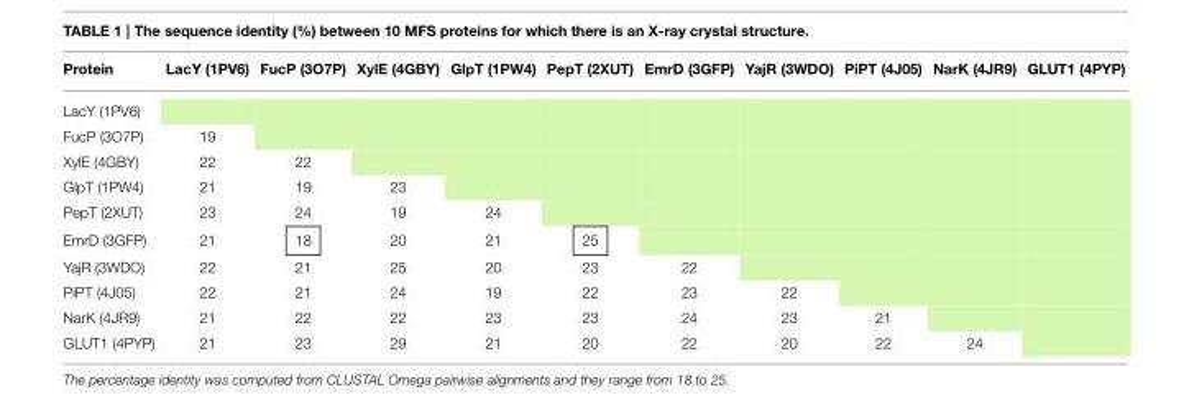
<table><thead><tr><td>Protein</td><td>LacY (1PV6)</td><td>FucP (3O7P)</td><td>XylE (4GBY)</td><td>GlpT (1PW4)</td><td>PepT (2XUT)</td><td>EmrD (3GFP)</td><td>YajR (3WDO)</td><td>PiPT (4J05)</td><td>NarK (4JR9)</td><td>GLUT1 (4PYP)</td></tr></thead><tbody><tr><td colspan="11">LacY (1PV6)</td></tr><tr><td>FucP (3O7P)</td><td>19</td><td></td><td></td><td></td><td></td><td></td><td></td><td></td><td></td><td></td></tr><tr><td>XylE (4GBY)</td><td>22</td><td>22</td><td></td><td></td><td></td><td></td><td></td><td></td><td></td><td></td></tr><tr><td>GlpT (1PW4)</td><td>21</td><td>19</td><td>23</td><td></td><td></td><td></td><td></td><td></td><td></td><td></td></tr><tr><td>PepT (2XUT)</td><td>23</td><td>24</td><td>19</td><td>24</td><td></td><td></td><td></td><td></td><td></td><td></td></tr><tr><td>EmrD (3GFP)</td><td>21</td><td>18</td><td>20</td><td>21</td><td>25</td><td></td><td></td><td></td><td></td><td></td></tr><tr><td>YajR (3WDO)</td><td>22</td><td>21</td><td>25</td><td>20</td><td>23</td><td>22</td><td></td><td></td><td></td><td></td></tr><tr><td>PiPT (4J05)</td><td>22</td><td>21</td><td>24</td><td>19</td><td>22</td><td>23</td><td>22</td><td></td><td></td><td></td></tr><tr><td>NarK (4JR9)</td><td>21</td><td>22</td><td>22</td><td>23</td><td>23</td><td>24</td><td>23</td><td>21</td><td></td><td></td></tr><tr><td>GLUT1 (4PYP)</td><td>21</td><td>23</td><td>29</td><td>21</td><td>20</td><td>22</td><td>20</td><td>22</td><td>24</td><td></td></tr></tbody></table>